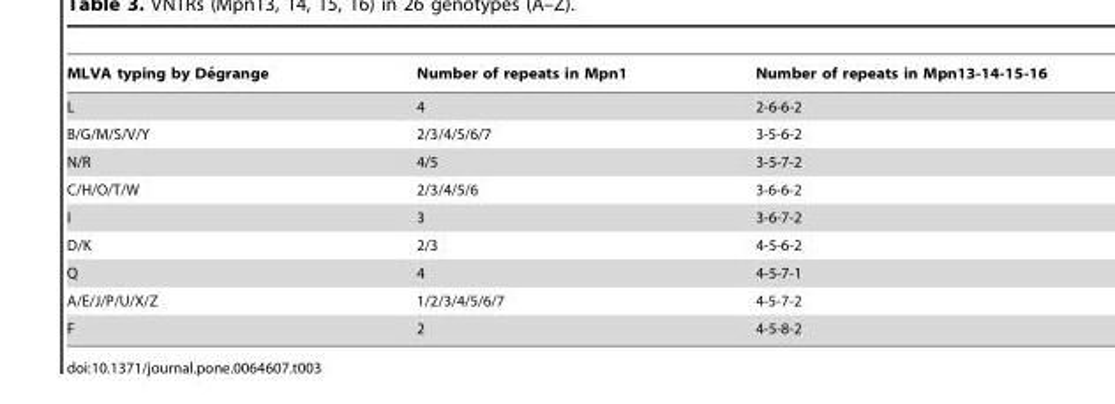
<table><thead><tr><td>MLVA typing by De´grange</td><td>Number of repeats in Mpn1</td><td>Number of repeats in Mpn13-14-15-16</td></tr></thead><tbody><tr><td>L</td><td>4</td><td>2-6-6-2</td></tr><tr><td>B/G/M/S/V/Y</td><td>2/3/4/5/6/7</td><td>3-5-6-2</td></tr><tr><td>N/R</td><td>4/5</td><td>3-5-7-2</td></tr><tr><td>C/H/O/T/W</td><td>2/3/4/5/6</td><td>3-6-6-2</td></tr><tr><td>I</td><td>3</td><td>3-6-7-2</td></tr><tr><td>D/K</td><td>2/3</td><td>4-5-6-2</td></tr><tr><td>Q</td><td>4</td><td>4-5-7-1</td></tr><tr><td>A/E/J/P/U/X/Z</td><td>1/2/3/4/5/6/7</td><td>4-5-7-2</td></tr><tr><td>F</td><td>2</td><td>4-5-8-2</td></tr></tbody></table>